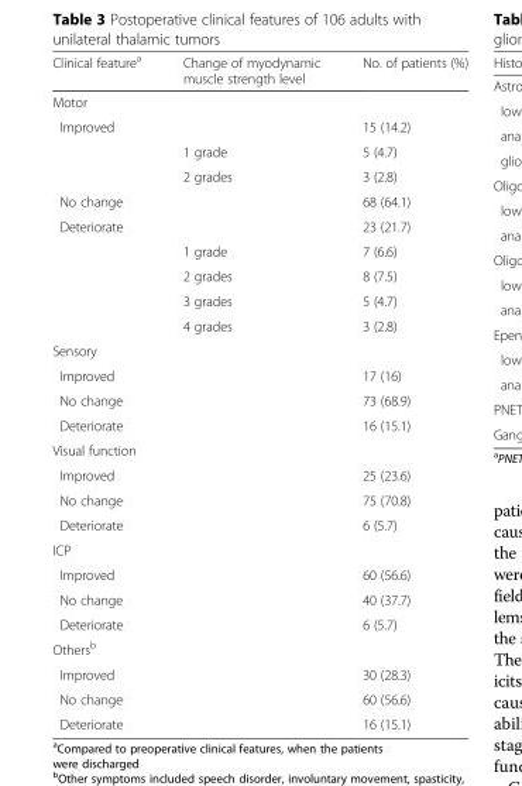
<table><thead><tr><td>Clinical feature<sup>a</sup></td><td>Change of myodynamic muscle strength level</td><td>No. of patients (%)</td></tr></thead><tbody><tr><td colspan="3">Motor</td></tr><tr><td rowspan="3">Improved</td><td></td><td>15 (14.2)</td></tr><tr><td>1 grade</td><td>5 (4.7)</td></tr><tr><td>2 grades</td><td>3 (2.8)</td></tr><tr><td>No change</td><td></td><td>68 (64.1)</td></tr><tr><td rowspan="5">Deteriorate</td><td></td><td>23 (21.7)</td></tr><tr><td>1 grade</td><td>7 (6.6)</td></tr><tr><td>2 grades</td><td>8 (7.5)</td></tr><tr><td>3 grades</td><td>5 (4.7)</td></tr><tr><td>4 grades</td><td>3 (2.8)</td></tr><tr><td colspan="3">Sensory</td></tr><tr><td>Improved</td><td></td><td>17 (16)</td></tr><tr><td>No change</td><td></td><td>73 (68.9)</td></tr><tr><td>Deteriorate</td><td></td><td>16 (15.1)</td></tr><tr><td colspan="3">Visual function</td></tr><tr><td>Improved</td><td></td><td>25 (23.6)</td></tr><tr><td>No change</td><td></td><td>75 (70.8)</td></tr><tr><td>Deteriorate</td><td></td><td>6 (5.7)</td></tr><tr><td colspan="3">ICP</td></tr><tr><td>Improved</td><td></td><td>60 (56.6)</td></tr><tr><td>No change</td><td></td><td>40 (37.7)</td></tr><tr><td>Deteriorate</td><td></td><td>6 (5.7)</td></tr><tr><td colspan="3">Others<sup>b</sup></td></tr><tr><td>Improved</td><td></td><td>30 (28.3)</td></tr><tr><td>No change</td><td></td><td>60 (56.6)</td></tr><tr><td>Deteriorate</td><td></td><td>16 (15.1)</td></tr></tbody></table>